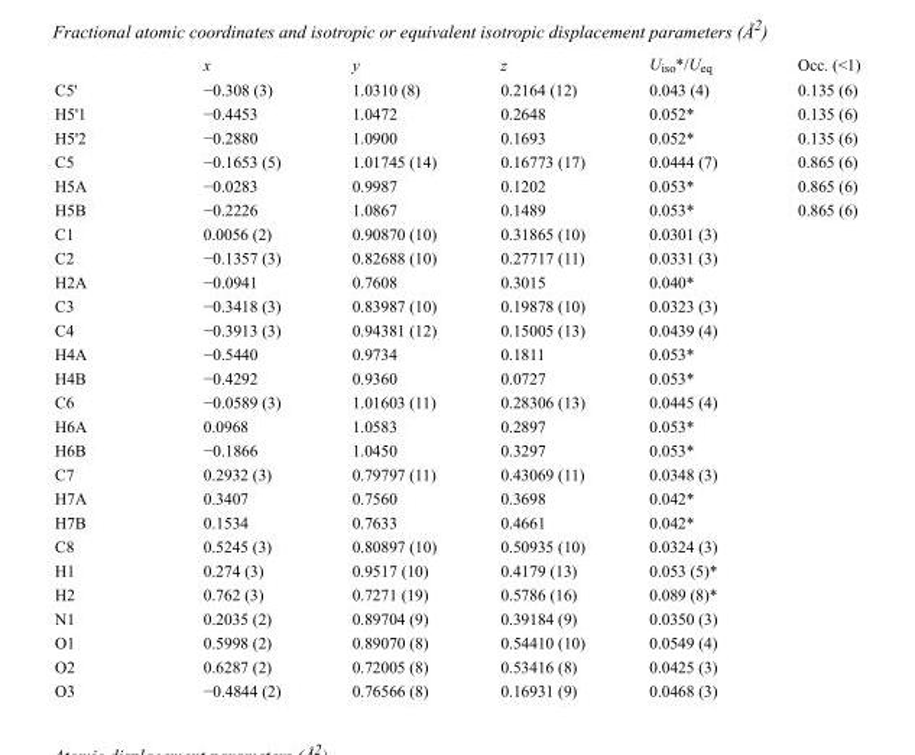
<table><thead><tr><td></td><td>x</td><td>y</td><td>z</td><td>U<sub>iso</sub>*/U<sub>eq</sub></td><td>Occ. (&lt;1)</td></tr></thead><tbody><tr><td>C5&#x27;</td><td>−0.308 (3)</td><td>1.0310 (8)</td><td>0.2164 (12)</td><td>0.043 (4)</td><td>0.135 (6)</td></tr><tr><td>H5&#x27;1</td><td>−0.4453</td><td>1.0472</td><td>0.2648</td><td>0.052*</td><td>0.135 (6)</td></tr><tr><td>H5&#x27;2</td><td>−0.2880</td><td>1.0900</td><td>0.1693</td><td>0.052*</td><td>0.135 (6)</td></tr><tr><td>C5</td><td>−0.1653 (5)</td><td>1.01745 (14)</td><td>0.16773 (17)</td><td>0.0444 (7)</td><td>0.865 (6)</td></tr><tr><td>H5A</td><td>−0.0283</td><td>0.9987</td><td>0.1202</td><td>0.053*</td><td>0.865 (6)</td></tr><tr><td>H5B</td><td>−0.2226</td><td>1.0867</td><td>0.1489</td><td>0.053*</td><td>0.865 (6)</td></tr><tr><td>C1</td><td>0.0056 (2)</td><td>0.90870 (10)</td><td>0.31865 (10)</td><td>0.0301 (3)</td><td></td></tr><tr><td>C2</td><td>−0.1357 (3)</td><td>0.82688 (10)</td><td>0.27717 (11)</td><td>0.0331 (3)</td><td></td></tr><tr><td>H2A</td><td>−0.0941</td><td>0.7608</td><td>0.3015</td><td>0.040*</td><td></td></tr><tr><td>C3</td><td>−0.3418 (3)</td><td>0.83987 (10)</td><td>0.19878 (10)</td><td>0.0323 (3)</td><td></td></tr><tr><td>C4</td><td>−0.3913 (3)</td><td>0.94381 (12)</td><td>0.15005 (13)</td><td>0.0439 (4)</td><td></td></tr><tr><td>H4A</td><td>−0.5440</td><td>0.9734</td><td>0.1811</td><td>0.053*</td><td></td></tr><tr><td>H4B</td><td>−0.4292</td><td>0.9360</td><td>0.0727</td><td>0.053*</td><td></td></tr><tr><td>C6</td><td>−0.0589 (3)</td><td>1.01603 (11)</td><td>0.28306 (13)</td><td>0.0445 (4)</td><td></td></tr><tr><td>H6A</td><td>0.0968</td><td>1.0583</td><td>0.2897</td><td>0.053*</td><td></td></tr><tr><td>H6B</td><td>−0.1866</td><td>1.0450</td><td>0.3297</td><td>0.053*</td><td></td></tr><tr><td>C7</td><td>0.2932 (3)</td><td>0.79797 (11)</td><td>0.43069 (11)</td><td>0.0348 (3)</td><td></td></tr><tr><td>H7A</td><td>0.3407</td><td>0.7560</td><td>0.3698</td><td>0.042*</td><td></td></tr><tr><td>H7B</td><td>0.1534</td><td>0.7633</td><td>0.4661</td><td>0.042*</td><td></td></tr><tr><td>C8</td><td>0.5245 (3)</td><td>0.80897 (10)</td><td>0.50935 (10)</td><td>0.0324 (3)</td><td></td></tr><tr><td>H1</td><td>0.274 (3)</td><td>0.9517 (10)</td><td>0.4179 (13)</td><td>0.053 (5)*</td><td></td></tr><tr><td>H2</td><td>0.762 (3)</td><td>0.7271 (19)</td><td>0.5786 (16)</td><td>0.089 (8)*</td><td></td></tr><tr><td>N1</td><td>0.2035 (2)</td><td>0.89704 (9)</td><td>0.39184 (9)</td><td>0.0350 (3)</td><td></td></tr><tr><td>O1</td><td>0.5998 (2)</td><td>0.89070 (8)</td><td>0.54410 (10)</td><td>0.0549 (4)</td><td></td></tr><tr><td>O2</td><td>0.6287 (2)</td><td>0.72005 (8)</td><td>0.53416 (8)</td><td>0.0425 (3)</td><td></td></tr><tr><td>O3</td><td>−0.4844 (2)</td><td>0.76566 (8)</td><td>0.16931 (9)</td><td>0.0468 (3)</td><td></td></tr></tbody></table>